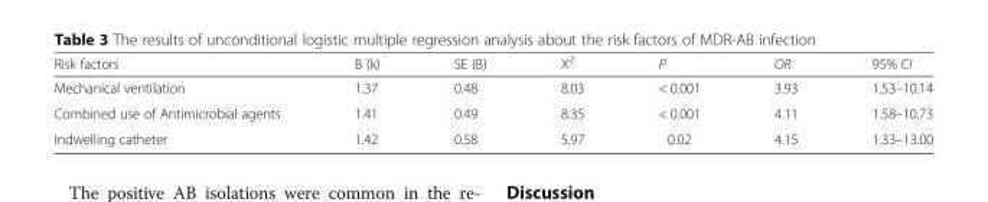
<table><thead><tr><td>Risk factors</td><td>B (k)</td><td>SE (B)</td><td>Χ<sup>2</sup></td><td>P</td><td>OR</td><td>95% CI</td></tr></thead><tbody><tr><td>Mechanical ventilation</td><td>1.37</td><td>0.48</td><td>8.03</td><td>&lt; 0.001</td><td>3.93</td><td>1.53–10.14</td></tr><tr><td>Combined use of Antimicrobial agents</td><td>1.41</td><td>0.49</td><td>8.35</td><td>&lt; 0.001</td><td>4.11</td><td>1.58–10.73</td></tr><tr><td>Indwelling catheter</td><td>1.42</td><td>0.58</td><td>5.97</td><td>0.02</td><td>4.15</td><td>1.33–13.00</td></tr></tbody></table>